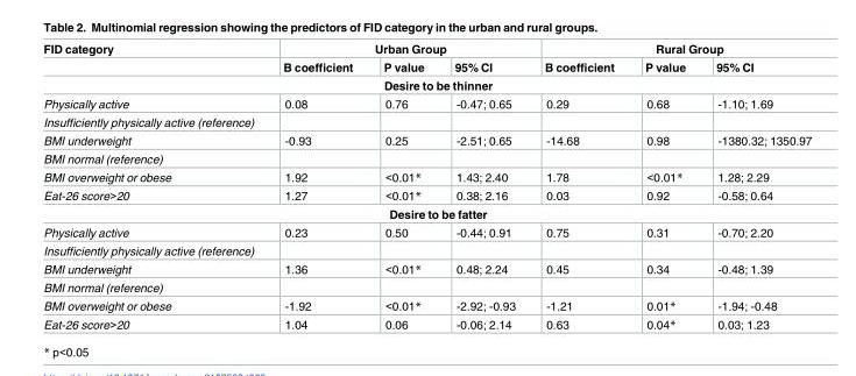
<table><thead><tr><td rowspan="2">FID category</td><td colspan="3">Urban Group</td><td colspan="3">Rural Group</td></tr><tr><td>B coefficient</td><td>P value</td><td>95% CI</td><td>B coefficient</td><td>P value</td><td>95% CI</td></tr></thead><tbody><tr><td colspan="7">Desire to be thinner</td></tr><tr><td>Physically active</td><td>0.08</td><td>0.76</td><td>-0.47; 0.65</td><td>0.29</td><td>0.68</td><td>-1.10; 1.69</td></tr><tr><td colspan="7">Insufficiently physically active (reference)</td></tr><tr><td>BMI underweight</td><td>-0.93</td><td>0.25</td><td>-2.51; 0.65</td><td>-14.68</td><td>0.98</td><td>-1380.32; 1350.97</td></tr><tr><td colspan="7">BMI normal (reference)</td></tr><tr><td>BMI overweight or obese</td><td>1.92</td><td>&lt;0.01*</td><td>1.43; 2.40</td><td>1.78</td><td>&lt;0.01*</td><td>1.28; 2.29</td></tr><tr><td>Eat-26 score&gt;20</td><td>1.27</td><td>&lt;0.01*</td><td>0.38; 2.16</td><td>0.03</td><td>0.92</td><td>-0.58; 0.64</td></tr><tr><td colspan="7">Desire to be fatter</td></tr><tr><td>Physically active</td><td>0.23</td><td>0.50</td><td>-0.44; 0.91</td><td>0.75</td><td>0.31</td><td>-0.70; 2.20</td></tr><tr><td colspan="7">Insufficiently physically active (reference)</td></tr><tr><td>BMI underweight</td><td>1.36</td><td>&lt;0.01*</td><td>0.48; 2.24</td><td>0.45</td><td>0.34</td><td>-0.48; 1.39</td></tr><tr><td colspan="7">BMI normal (reference)</td></tr><tr><td>BMI overweight or obese</td><td>-1.92</td><td>&lt;0.01*</td><td>-2.92; -0.93</td><td>-1.21</td><td>0.01*</td><td>-1.94; -0.48</td></tr><tr><td>Eat-26 score&gt;20</td><td>1.04</td><td>0.06</td><td>-0.06; 2.14</td><td>0.63</td><td>0.04*</td><td>0.03; 1.23</td></tr></tbody></table>